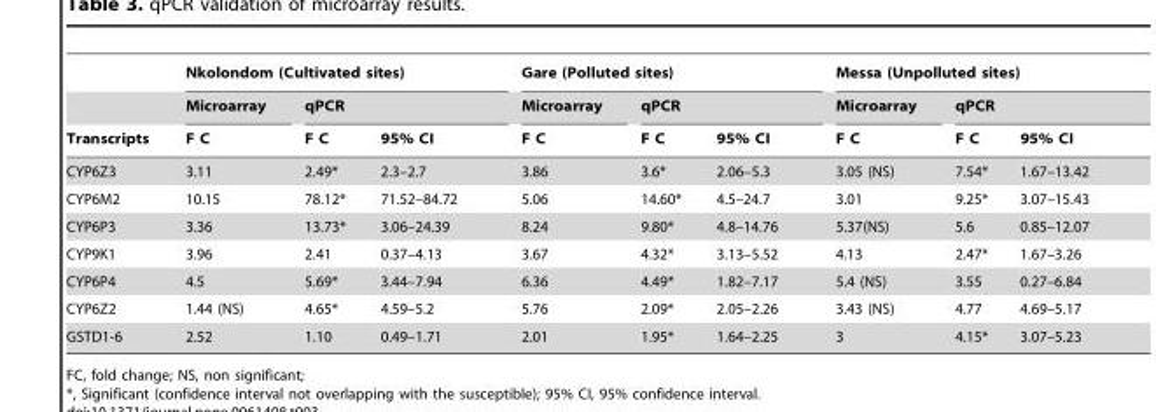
<table><thead><tr><td rowspan="3">Transcripts</td><td colspan="3">Nkolondom (Cultivated sites)</td><td colspan="3">Gare (Polluted sites)</td><td colspan="3">Messa (Unpolluted sites)</td></tr><tr><td rowspan="2">Microarray F C</td><td colspan="2">qPCR</td><td rowspan="2">Microarray F C</td><td colspan="2">qPCR</td><td rowspan="2">Microarray F C</td><td colspan="2">qPCR</td></tr><tr><td>F C</td><td>95% CI</td><td>F C</td><td>95% CI</td><td>F C</td><td>95% CI</td></tr></thead><tbody><tr><td>CYP6Z3</td><td>3.11</td><td>2.49*</td><td>2.3–2.7</td><td>3.86</td><td>3.6*</td><td>2.06–5.3</td><td>3.05 (NS)</td><td>7.54*</td><td>1.67–13.42</td></tr><tr><td>CYP6M2</td><td>10.15</td><td>78.12*</td><td>71.52–84.72</td><td>5.06</td><td>14.60*</td><td>4.5–24.7</td><td>3.01</td><td>9.25*</td><td>3.07–15.43</td></tr><tr><td>CYP6P3</td><td>3.36</td><td>13.73*</td><td>3.06–24.39</td><td>8.24</td><td>9.80*</td><td>4.8–14.76</td><td>5.37(NS)</td><td>5.6</td><td>0.85–12.07</td></tr><tr><td>CYP9K1</td><td>3.96</td><td>2.41</td><td>0.37–4.13</td><td>3.67</td><td>4.32*</td><td>3.13–5.52</td><td>4.13</td><td>2.47*</td><td>1.67–3.26</td></tr><tr><td>CYP6P4</td><td>4.5</td><td>5.69*</td><td>3.44–7.94</td><td>6.36</td><td>4.49*</td><td>1.82–7.17</td><td>5.4 (NS)</td><td>3.55</td><td>0.27–6.84</td></tr><tr><td>CYP6Z2</td><td>1.44 (NS)</td><td>4.65*</td><td>4.59–5.2</td><td>5.76</td><td>2.09*</td><td>2.05–2.26</td><td>3.43 (NS)</td><td>4.77</td><td>4.69–5.17</td></tr><tr><td>GSTD1-6</td><td>2.52</td><td>1.10</td><td>0.49–1.71</td><td>2.01</td><td>1.95*</td><td>1.64–2.25</td><td>3</td><td>4.15*</td><td>3.07–5.23</td></tr></tbody></table>